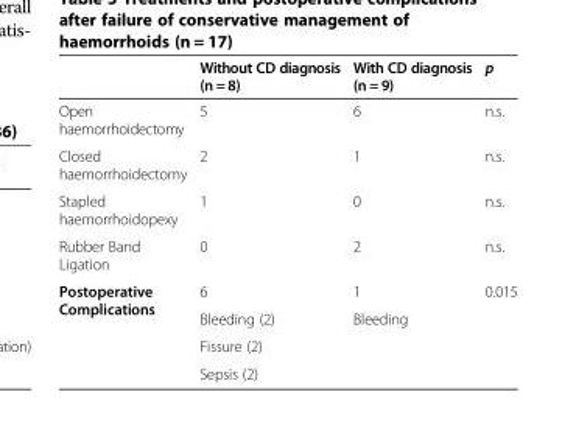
<table><thead><tr><td></td><td>Without CD diagnosis (n = 8)</td><td>With CD diagnosis (n = 9)</td><td>p</td></tr></thead><tbody><tr><td>Open haemorrhoidectomy</td><td>5</td><td>6</td><td>n.s.</td></tr><tr><td>Closed haemorrhoidectomy</td><td>2</td><td>1</td><td>n.s.</td></tr><tr><td>Stapled haemorrhoidopexy</td><td>1</td><td>0</td><td>n.s.</td></tr><tr><td>Rubber Band Ligation</td><td>0</td><td>2</td><td>n.s.</td></tr><tr><td rowspan="4">Postoperative Complications</td><td>6</td><td>1</td><td>0.015</td></tr><tr><td>Bleeding (2)</td><td>Bleeding</td><td></td></tr><tr><td>Fissure (2)</td><td></td><td></td></tr><tr><td>Sepsis (2)</td><td></td><td></td></tr></tbody></table>